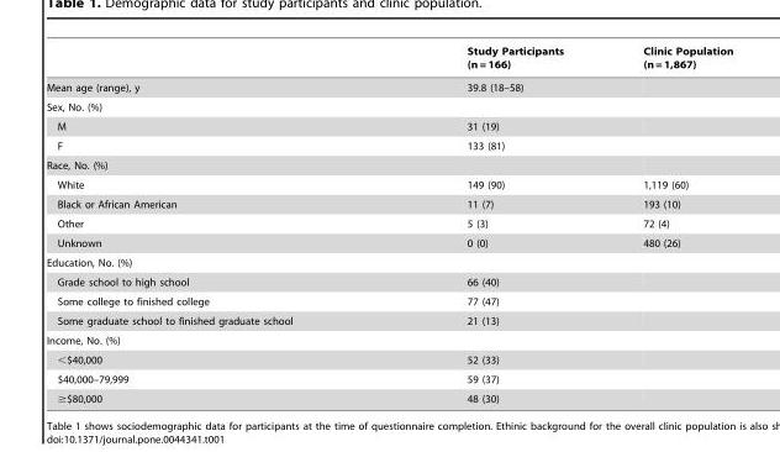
<table><thead><tr><td></td><td>Study Participants (n = 166)</td><td>Clinic Population (n = 1,867)</td></tr></thead><tbody><tr><td>Mean age (range), y</td><td>39.8 (18–58)</td><td></td></tr><tr><td colspan="3">Sex, No. (%)</td></tr><tr><td>M</td><td>31 (19)</td><td></td></tr><tr><td>F</td><td>133 (81)</td><td></td></tr><tr><td colspan="3">Race, No. (%)</td></tr><tr><td>White</td><td>149 (90)</td><td>1,119 (60)</td></tr><tr><td>Black or African American</td><td>11 (7)</td><td>193 (10)</td></tr><tr><td>Other</td><td>5 (3)</td><td>72 (4)</td></tr><tr><td>Unknown</td><td>0 (0)</td><td>480 (26)</td></tr><tr><td colspan="3">Education, No. (%)</td></tr><tr><td>Grade school to high school</td><td>66 (40)</td><td></td></tr><tr><td>Some college to finished college</td><td>77 (47)</td><td></td></tr><tr><td>Some graduate school to finished graduate school</td><td>21 (13)</td><td></td></tr><tr><td colspan="3">Income, No. (%)</td></tr><tr><td>&lt;$40,000</td><td>52 (33)</td><td></td></tr><tr><td>$40,000–79,999</td><td>59 (37)</td><td></td></tr><tr><td>≥$80,000</td><td>48 (30)</td><td></td></tr></tbody></table>